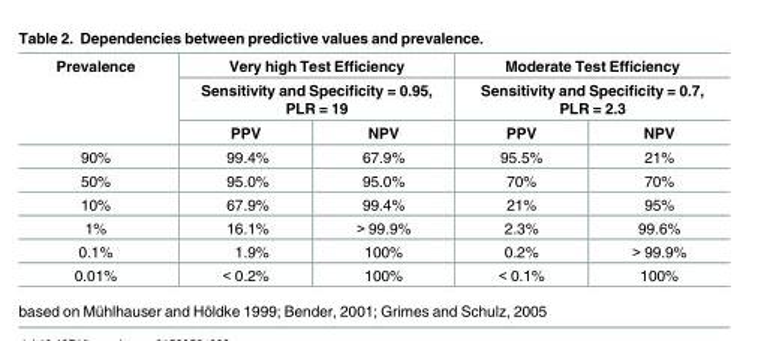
<table><thead><tr><td rowspan="3">Prevalence</td><td rowspan="2" colspan="2">Very high Test Efficiency Sensitivity and Specificity = 0.95, PLR = 19</td><td rowspan="2" colspan="2">Moderate Test Efficiency Sensitivity and Specificity = 0.7, PLR = 2.3</td></tr><tr></tr><tr><td>PPV</td><td>NPV</td><td>PPV</td><td>NPV</td></tr></thead><tbody><tr><td>90%</td><td>99.4%</td><td>67.9%</td><td>95.5%</td><td>21%</td></tr><tr><td>50%</td><td>95.0%</td><td>95.0%</td><td>70%</td><td>70%</td></tr><tr><td>10%</td><td>67.9%</td><td>99.4%</td><td>21%</td><td>95%</td></tr><tr><td>1%</td><td>16.1%</td><td>&gt; 99.9%</td><td>2.3%</td><td>99.6%</td></tr><tr><td>0.1%</td><td>1.9%</td><td>100%</td><td>0.2%</td><td>&gt; 99.9%</td></tr><tr><td>0.01%</td><td>&lt; 0.2%</td><td>100%</td><td>&lt; 0.1%</td><td>100%</td></tr></tbody></table>